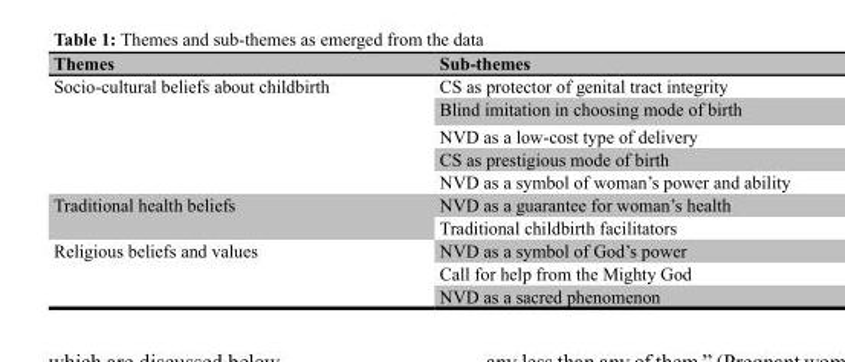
<table><thead><tr><td>Themes</td><td>Sub-themes</td></tr></thead><tbody><tr><td rowspan="5">Socio-cultural beliefs about childbirth</td><td>CS as protector of genital tract integrity</td></tr><tr><td>Blind imitation in choosing mode of birth</td></tr><tr><td>NVD as a low-cost type of delivery</td></tr><tr><td>CS as prestigious mode of birth</td></tr><tr><td>NVD as a symbol of woman’s power and ability</td></tr><tr><td rowspan="2">Traditional health beliefs</td><td>NVD as a guarantee for woman’s health</td></tr><tr><td>Traditional childbirth facilitators</td></tr><tr><td rowspan="3">Religious beliefs and values</td><td>NVD as a symbol of God’s power</td></tr><tr><td>Call for help from the Mighty God</td></tr><tr><td>NVD as a sacred phenomenon</td></tr></tbody></table>